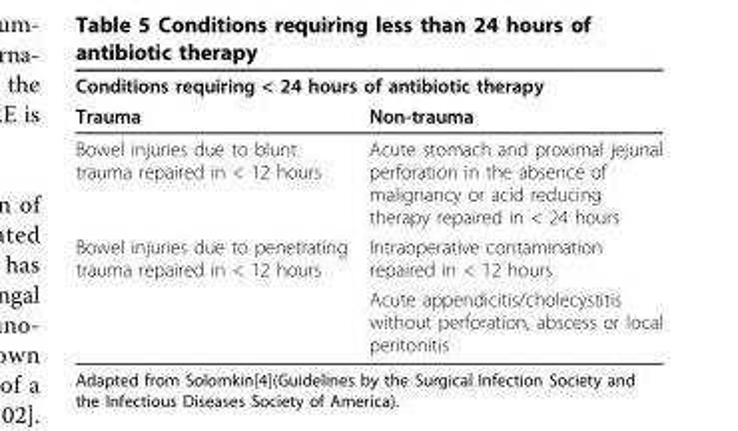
<table><thead><tr><td colspan="2">Conditions requiring &lt; 24 hours of antibiotic therapy</td></tr><tr><td>Trauma</td><td>Non-trauma</td></tr></thead><tbody><tr><td>Bowel injuries due to blunt trauma repaired in &lt; 12 hours</td><td>Acute stomach and proximal jejunal perforation in the absence of malignancy or acid reducing therapy repaired in &lt; 24 hours</td></tr><tr><td rowspan="2">Bowel injuries due to penetrating trauma repaired in &lt; 12 hours</td><td>Intraoperative contamination repaired in &lt; 12 hours</td></tr><tr><td>Acute appendicitis/cholecystitis without perforation, abscess or local peritonitis</td></tr></tbody></table>